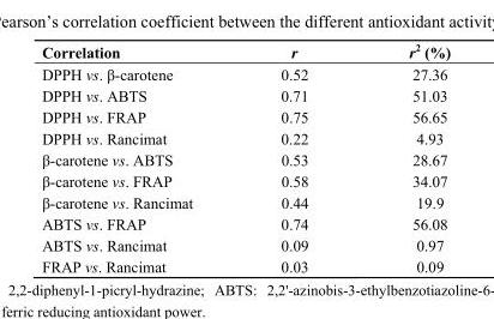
<table><thead><tr><td>Correlation</td><td>r</td><td>r<sup>2</sup> (%)</td></tr></thead><tbody><tr><td>DPPH vs. β-carotene</td><td>0.52</td><td>27.36</td></tr><tr><td>DPPH vs. ABTS</td><td>0.71</td><td>51.03</td></tr><tr><td>DPPH vs. FRAP</td><td>0.75</td><td>56.65</td></tr><tr><td>DPPH vs. Rancimat</td><td>0.22</td><td>4.93</td></tr><tr><td>β-carotene vs. ABTS</td><td>0.53</td><td>28.67</td></tr><tr><td>β-carotene vs. FRAP</td><td>0.58</td><td>34.07</td></tr><tr><td>β-carotene vs. Rancimat</td><td>0.44</td><td>19.9</td></tr><tr><td>ABTS vs. FRAP</td><td>0.74</td><td>56.08</td></tr><tr><td>ABTS vs. Rancimat</td><td>0.09</td><td>0.97</td></tr><tr><td>FRAP vs. Rancimat</td><td>0.03</td><td>0.09</td></tr></tbody></table>